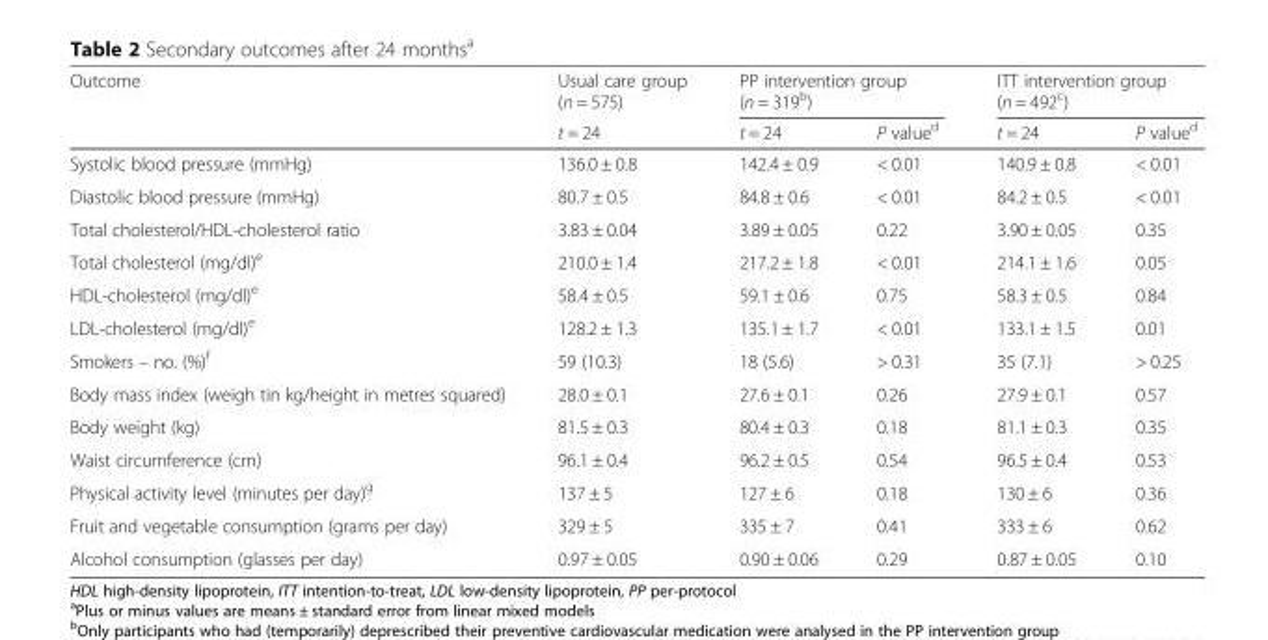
<table><thead><tr><td rowspan="2">Outcome</td><td rowspan="2">Usual care group (n = 575) t = 24</td><td colspan="2">PP intervention group (n = 319<sup>b</sup>)</td><td colspan="2">ITT intervention group (n = 492<sup>c</sup>)</td></tr><tr><td>t = 24</td><td>P value<sup>d</sup></td><td>t = 24</td><td>P value<sup>d</sup></td></tr></thead><tbody><tr><td>Systolic blood pressure (mmHg)</td><td>136.0 ± 0.8</td><td>142.4 ± 0.9</td><td>&lt; 0.01</td><td>140.9 ± 0.8</td><td>&lt; 0.01</td></tr><tr><td>Diastolic blood pressure (mmHg)</td><td>80.7 ± 0.5</td><td>84.8 ± 0.6</td><td>&lt; 0.01</td><td>84.2 ± 0.5</td><td>&lt; 0.01</td></tr><tr><td>Total cholesterol/HDL-cholesterol ratio</td><td>3.83 ± 0.04</td><td>3.89 ± 0.05</td><td>0.22</td><td>3.90 ± 0.05</td><td>0.35</td></tr><tr><td>Total cholesterol (mg/dl)<sup>e</sup></td><td>210.0 ± 1.4</td><td>217.2 ± 1.8</td><td>&lt; 0.01</td><td>214.1 ± 1.6</td><td>0.05</td></tr><tr><td>HDL-cholesterol (mg/dl)<sup>e</sup></td><td>58.4 ± 0.5</td><td>59.1 ± 0.6</td><td>0.75</td><td>58.3 ± 0.5</td><td>0.84</td></tr><tr><td>LDL-cholesterol (mg/dl)<sup>e</sup></td><td>128.2 ± 1.3</td><td>135.1 ± 1.7</td><td>&lt; 0.01</td><td>133.1 ± 1.5</td><td>0.01</td></tr><tr><td>Smokers – no. (%)<sup>f</sup></td><td>59 (10.3)</td><td>18 (5.6)</td><td>&gt; 0.31</td><td>35 (7.1)</td><td>&gt; 0.25</td></tr><tr><td>Body mass index (weigh tin kg/height in metres squared)</td><td>28.0 ± 0.1</td><td>27.6 ± 0.1</td><td>0.26</td><td>27.9 ± 0.1</td><td>0.57</td></tr><tr><td>Body weight (kg)</td><td>81.5 ± 0.3</td><td>80.4 ± 0.3</td><td>0.18</td><td>81.1 ± 0.3</td><td>0.35</td></tr><tr><td>Waist circumference (cm)</td><td>96.1 ± 0.4</td><td>96.2 ± 0.5</td><td>0.54</td><td>96.5 ± 0.4</td><td>0.53</td></tr><tr><td>Physical activity level (minutes per day)<sup>g</sup></td><td>137 ± 5</td><td>127 ± 6</td><td>0.18</td><td>130 ± 6</td><td>0.36</td></tr><tr><td>Fruit and vegetable consumption (grams per day)</td><td>329 ± 5</td><td>335 ± 7</td><td>0.41</td><td>333 ± 6</td><td>0.62</td></tr><tr><td>Alcohol consumption (glasses per day)</td><td>0.97 ± 0.05</td><td>0.90 ± 0.06</td><td>0.29</td><td>0.87 ± 0.05</td><td>0.10</td></tr></tbody></table>